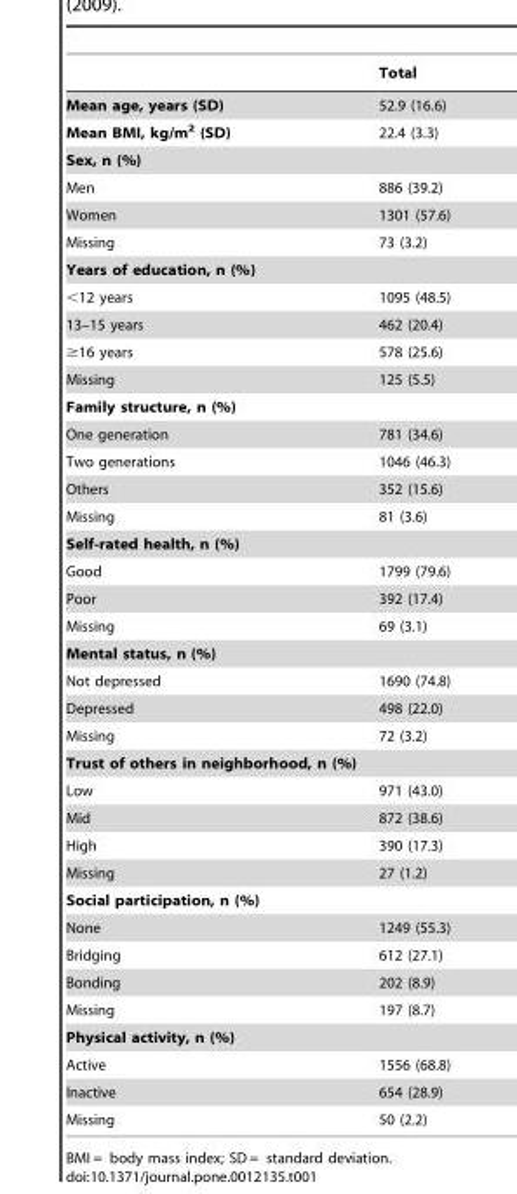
<table><thead><tr><td></td><td>Total</td></tr></thead><tbody><tr><td>Mean age, years (SD)</td><td>52.9 (16.6)</td></tr><tr><td>Mean BMI, kg/m<sup>2</sup> (SD)</td><td>22.4 (3.3)</td></tr><tr><td colspan="2">Sex, n (%)</td></tr><tr><td>Men</td><td>886 (39.2)</td></tr><tr><td>Women</td><td>1301 (57.6)</td></tr><tr><td>Missing</td><td>73 (3.2)</td></tr><tr><td colspan="2">Years of education, n (%)</td></tr><tr><td>&lt;12 years</td><td>1095 (48.5)</td></tr><tr><td>13–15 years</td><td>462 (20.4)</td></tr><tr><td>≥16 years</td><td>578 (25.6)</td></tr><tr><td>Missing</td><td>125 (5.5)</td></tr><tr><td colspan="2">Family structure, n (%)</td></tr><tr><td>One generation</td><td>781 (34.6)</td></tr><tr><td>Two generations</td><td>1046 (46.3)</td></tr><tr><td>Others</td><td>352 (15.6)</td></tr><tr><td>Missing</td><td>81 (3.6)</td></tr><tr><td colspan="2">Self-rated health, n (%)</td></tr><tr><td>Good</td><td>1799 (79.6)</td></tr><tr><td>Poor</td><td>392 (17.4)</td></tr><tr><td>Missing</td><td>69 (3.1)</td></tr><tr><td colspan="2">Mental status, n (%)</td></tr><tr><td>Not depressed</td><td>1690 (74.8)</td></tr><tr><td>Depressed</td><td>498 (22.0)</td></tr><tr><td>Missing</td><td>72 (3.2)</td></tr><tr><td colspan="2">Trust of others in neighborhood, n (%)</td></tr><tr><td>Low</td><td>971 (43.0)</td></tr><tr><td>Mid</td><td>872 (38.6)</td></tr><tr><td>High</td><td>390 (17.3)</td></tr><tr><td>Missing</td><td>27 (1.2)</td></tr><tr><td colspan="2">Social participation, n (%)</td></tr><tr><td>None</td><td>1249 (55.3)</td></tr><tr><td>Bridging</td><td>612 (27.1)</td></tr><tr><td>Bonding</td><td>202 (8.9)</td></tr><tr><td>Missing</td><td>197 (8.7)</td></tr><tr><td colspan="2">Physical activity, n (%)</td></tr><tr><td>Active</td><td>1556 (68.8)</td></tr><tr><td>Inactive</td><td>654 (28.9)</td></tr><tr><td>Missing</td><td>50 (2.2)</td></tr></tbody></table>